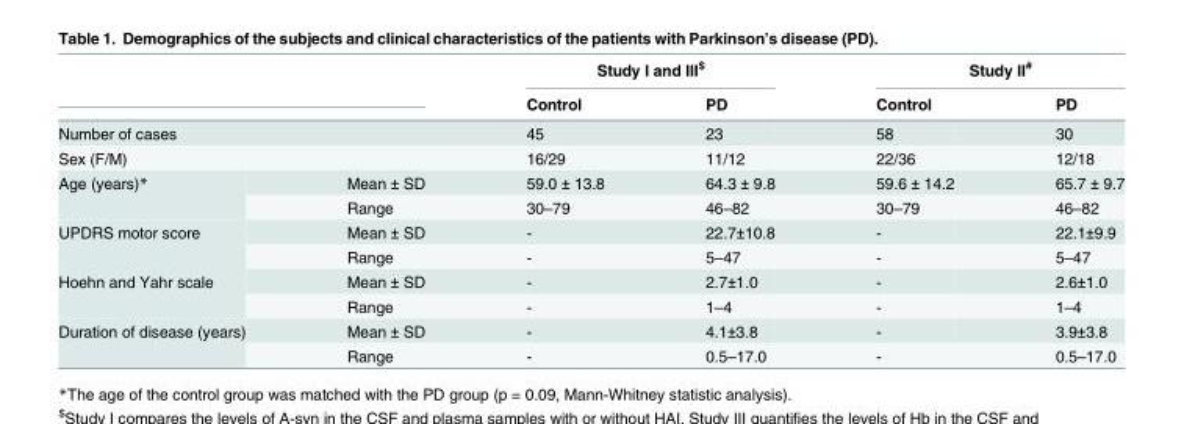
<table><thead><tr><td rowspan="2"></td><td rowspan="2"></td><td colspan="2">Study I and III<sup>$</sup></td><td colspan="2">Study II<sup>#</sup></td></tr><tr><td>Control</td><td>PD</td><td>Control</td><td>PD</td></tr></thead><tbody><tr><td colspan="2">Number of cases</td><td>45</td><td>23</td><td>58</td><td>30</td></tr><tr><td colspan="2">Sex (F/M)</td><td>16/29</td><td>11/12</td><td>22/36</td><td>12/18</td></tr><tr><td rowspan="2">Age (years)*</td><td>Mean ± SD</td><td>59.0 ± 13.8</td><td>64.3 ± 9.8</td><td>59.6 ± 14.2</td><td>65.7 ± 9.7</td></tr><tr><td>Range</td><td>30–79</td><td>46–82</td><td>30–79</td><td>46–82</td></tr><tr><td rowspan="2">UPDRS motor score</td><td>Mean ± SD</td><td>-</td><td>22.7±10.8</td><td>-</td><td>22.1±9.9</td></tr><tr><td>Range</td><td>-</td><td>5–47</td><td>-</td><td>5–47</td></tr><tr><td rowspan="2">Hoehn and Yahr scale</td><td>Mean ± SD</td><td>-</td><td>2.7±1.0</td><td>-</td><td>2.6±1.0</td></tr><tr><td>Range</td><td>-</td><td>1–4</td><td>-</td><td>1–4</td></tr><tr><td rowspan="2">Duration of disease (years)</td><td>Mean ± SD</td><td>-</td><td>4.1±3.8</td><td>-</td><td>3.9±3.8</td></tr><tr><td>Range</td><td>-</td><td>0.5–17.0</td><td>-</td><td>0.5–17.0</td></tr></tbody></table>